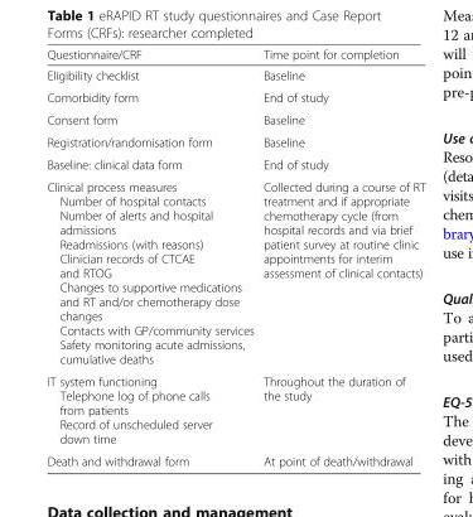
<table><thead><tr><td>Questionnaire/CRF</td><td>Time point for completion</td></tr></thead><tbody><tr><td>Eligibility checklist</td><td>Baseline</td></tr><tr><td>Comorbidity form</td><td>End of study</td></tr><tr><td>Consent form</td><td>Baseline</td></tr><tr><td>Registration/randomisation form</td><td>Baseline</td></tr><tr><td>Baseline: clinical data form</td><td>End of study</td></tr><tr><td>Clinical process measures Number of hospital contacts Number of alerts and hospital admissions Readmissions (with reasons) Clinician records of CTCAE and RTOG Changes to supportive medications and RT and/or chemotherapy dose changes Contacts with GP/community services Safety monitoring acute admissions, cumulative deaths</td><td>Collected during a course of RT treatment and if appropriate chemotherapy cycle (from hospital records and via brief patient survey at routine clinic appointments for interim assessment of clinical contacts)</td></tr><tr><td>IT system functioning Telephone log of phone calls from patients Record of unscheduled server down time</td><td>Throughout the duration of the study</td></tr><tr><td>Death and withdrawal form</td><td>At point of death/withdrawal</td></tr></tbody></table>